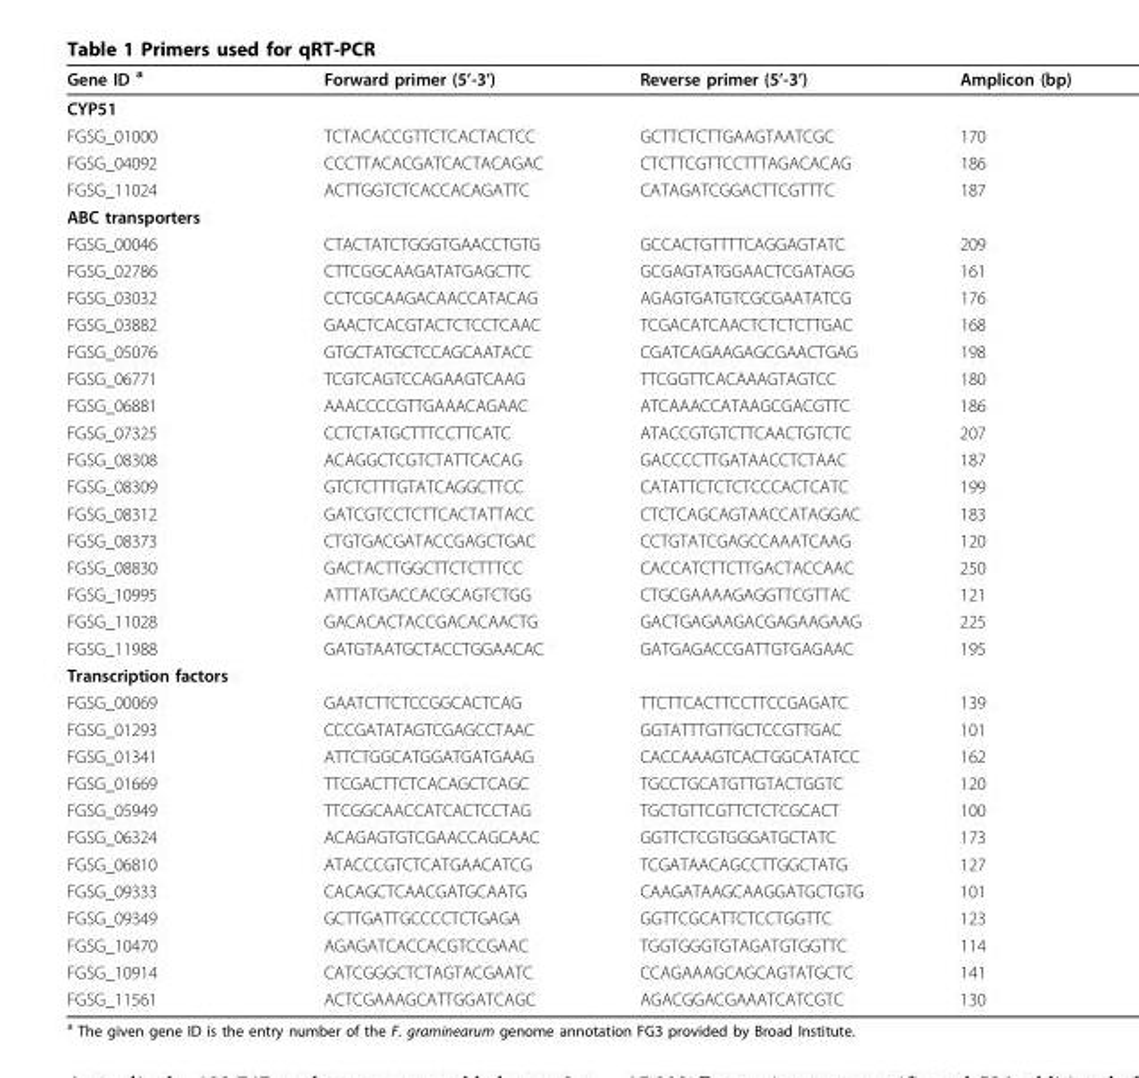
<table><thead><tr><td>Gene ID <sup>a</sup></td><td>Forward primer (5’-3’)</td><td>Reverse primer (5’-3’)</td><td>Amplicon (bp)</td></tr></thead><tbody><tr><td colspan="4">CYP51</td></tr><tr><td>FGSG_01000</td><td>TCTACACCGTTCTCACTACTCC</td><td>GCTTCTCTTGAAGTAATCGC</td><td>170</td></tr><tr><td>FGSG_04092</td><td>CCCTTACACGATCACTACAGAC</td><td>CTCTTCGTTCCTTTAGACACAG</td><td>186</td></tr><tr><td>FGSG_11024</td><td>ACTTGGTCTCACCACAGATTC</td><td>CATAGATCGGACTTCGTTTC</td><td>187</td></tr><tr><td colspan="4">ABC transporters</td></tr><tr><td>FGSG_00046</td><td>CTACTATCTGGGTGAACCTGTG</td><td>GCCACTGTTTTCAGGAGTATC</td><td>209</td></tr><tr><td>FGSG_02786</td><td>CTTCGGCAAGATATGAGCTTC</td><td>GCGAGTATGGAACTCGATAGG</td><td>161</td></tr><tr><td>FGSG_03032</td><td>CCTCGCAAGACAACCATACAG</td><td>AGAGTGATGTCGCGAATATCG</td><td>176</td></tr><tr><td>FGSG_03882</td><td>GAACTCACGTACTCTCCTCAAC</td><td>TCGACATCAACTCTCTCTTGAC</td><td>168</td></tr><tr><td>FGSG_05076</td><td>GTGCTATGCTCCAGCAATACC</td><td>CGATCAGAAGAGCGAACTGAG</td><td>198</td></tr><tr><td>FGSG_06771</td><td>TCGTCAGTCCAGAAGTCAAG</td><td>TTCGGTTCACAAAGTAGTCC</td><td>180</td></tr><tr><td>FGSG_06881</td><td>AAACCCCGTTGAAACAGAAC</td><td>ATCAAACCATAAGCGACGTTC</td><td>186</td></tr><tr><td>FGSG_07325</td><td>CCTCTATGCTTTCCTTCATC</td><td>ATACCGTGTCTTCAACTGTCTC</td><td>207</td></tr><tr><td>FGSG_08308</td><td>ACAGGCTCGTCTATTCACAG</td><td>GACCCCTTGATAACCTCTAAC</td><td>187</td></tr><tr><td>FGSG_08309</td><td>GTCTCTTTGTATCAGGCTTCC</td><td>CATATTCTCTCTCCCACTCATC</td><td>199</td></tr><tr><td>FGSG_08312</td><td>GATCGTCCTCTTCACTATTACC</td><td>CTCTCAGCAGTAACCATAGGAC</td><td>183</td></tr><tr><td>FGSG_08373</td><td>CTGTGACGATACCGAGCTGAC</td><td>CCTGTATCGAGCCAAATCAAG</td><td>120</td></tr><tr><td>FGSG_08830</td><td>GACTACTTGGCTTCTCTTTCC</td><td>CACCATCTTCTTGACTACCAAC</td><td>250</td></tr><tr><td>FGSG_10995</td><td>ATTTATGACCACGCAGTCTGG</td><td>CTGCGAAAAGAGGTTCGTTAC</td><td>121</td></tr><tr><td>FGSG_11028</td><td>GACACACTACCGACACAACTG</td><td>GACTGAGAAGACGAGAAGAAG</td><td>225</td></tr><tr><td>FGSG_11988</td><td>GATGTAATGCTACCTGGAACAC</td><td>GATGAGACCGATTGTGAGAAC</td><td>195</td></tr><tr><td colspan="4">Transcription factors</td></tr><tr><td>FGSG_00069</td><td>GAATCTTCTCCGGCACTCAG</td><td>TTCTTCACTTCCTTCCGAGATC</td><td>139</td></tr><tr><td>FGSG_01293</td><td>CCCGATATAGTCGAGCCTAAC</td><td>GGTATTTGTTGCTCCGTTGAC</td><td>101</td></tr><tr><td>FGSG_01341</td><td>ATTCTGGCATGGATGATGAAG</td><td>CACCAAAGTCACTGGCATATCC</td><td>162</td></tr><tr><td>FGSG_01669</td><td>TTCGACTTCTCACAGCTCAGC</td><td>TGCCTGCATGTTGTACTGGTC</td><td>120</td></tr><tr><td>FGSG_05949</td><td>TTCGGCAACCATCACTCCTAG</td><td>TGCTGTTCGTTCTCTCGCACT</td><td>100</td></tr><tr><td>FGSG_06324</td><td>ACAGAGTGTCGAACCAGCAAC</td><td>GGTTCTCGTGGGATGCTATC</td><td>173</td></tr><tr><td>FGSG_06810</td><td>ATACCCGTCTCATGAACATCG</td><td>TCGATAACAGCCTTGGCTATG</td><td>127</td></tr><tr><td>FGSG_09333</td><td>CACAGCTCAACGATGCAATG</td><td>CAAGATAAGCAAGGATGCTGTG</td><td>101</td></tr><tr><td>FGSG_09349</td><td>GCTTGATTGCCCCTCTGAGA</td><td>GGTTCGCATTCTCCTGGTTC</td><td>123</td></tr><tr><td>FGSG_10470</td><td>AGAGATCACCACGTCCGAAC</td><td>TGGTGGGTGTAGATGTGGTTC</td><td>114</td></tr><tr><td>FGSG_10914</td><td>CATCGGGCTCTAGTACGAATC</td><td>CCAGAAAGCAGCAGTATGCTC</td><td>141</td></tr><tr><td>FGSG_11561</td><td>ACTCGAAAGCATTGGATCAGC</td><td>AGACGGACGAAATCATCGTC</td><td>130</td></tr></tbody></table>